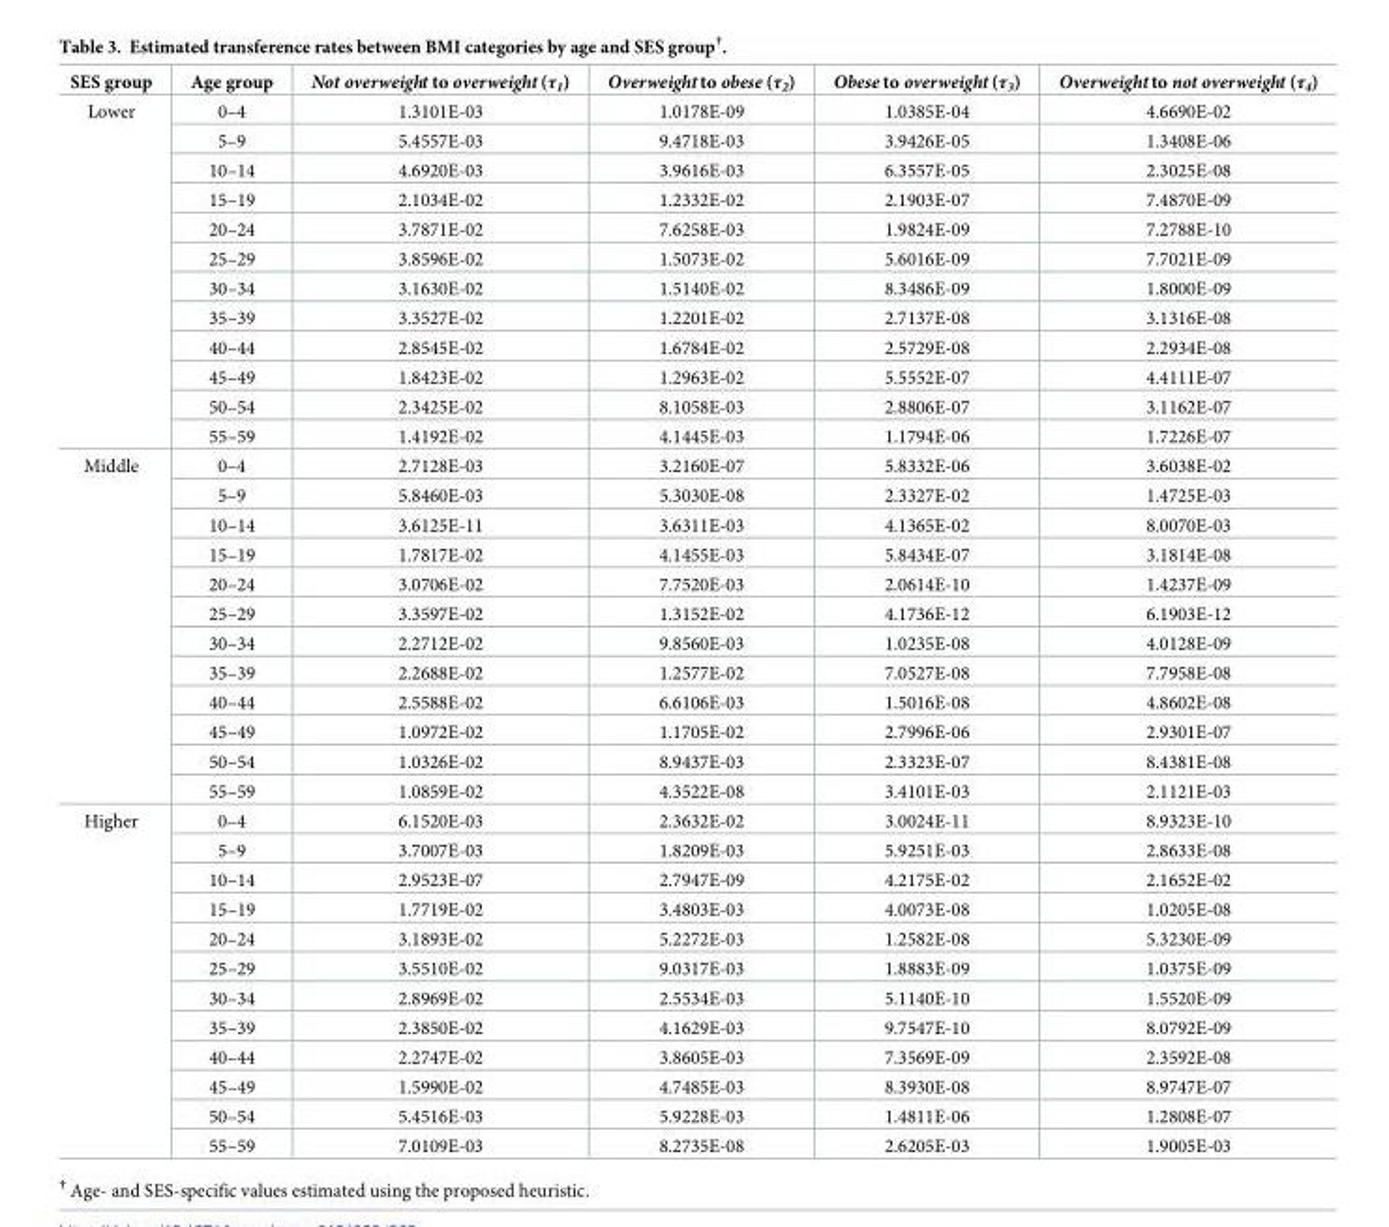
<table><thead><tr><td>SES group</td><td>Age group</td><td>Not overweight to overweight (τ<sub>1</sub>)</td><td>Overweight to obese (τ<sub>2</sub>)</td><td>Obese to overweight (τ<sub>3</sub>)</td><td>Overweightto not overweight (τ<sub>4</sub>)</td></tr></thead><tbody><tr><td rowspan="12">Lower</td><td>0–4</td><td>1.3101E-03</td><td>1.0178E-09</td><td>1.0385E-04</td><td>4.6690E-02</td></tr><tr><td>5–9</td><td>5.4557E-03</td><td>9.4718E-03</td><td>3.9426E-05</td><td>1.3408E-06</td></tr><tr><td>10–14</td><td>4.6920E-03</td><td>3.9616E-03</td><td>6.3557E-05</td><td>2.3025E-08</td></tr><tr><td>15–19</td><td>2.1034E-02</td><td>1.2332E-02</td><td>2.1903E-07</td><td>7.4870E-09</td></tr><tr><td>20–24</td><td>3.7871E-02</td><td>7.6258E-03</td><td>1.9824E-09</td><td>7.2788E-10</td></tr><tr><td>25–29</td><td>3.8596E-02</td><td>1.5073E-02</td><td>5.6016E-09</td><td>7.7021E-09</td></tr><tr><td>30–34</td><td>3.1630E-02</td><td>1.5140E-02</td><td>8.3486E-09</td><td>1.8000E-09</td></tr><tr><td>35–39</td><td>3.3527E-02</td><td>1.2201E-02</td><td>2.7137E-08</td><td>3.1316E-08</td></tr><tr><td>40–44</td><td>2.8545E-02</td><td>1.6784E-02</td><td>2.5729E-08</td><td>2.2934E-08</td></tr><tr><td>45–49</td><td>1.8423E-02</td><td>1.2963E-02</td><td>5.5552E-07</td><td>4.4111E-07</td></tr><tr><td>50–54</td><td>2.3425E-02</td><td>8.1058E-03</td><td>2.8806E-07</td><td>3.1162E-07</td></tr><tr><td>55–59</td><td>1.4192E-02</td><td>4.1445E-03</td><td>1.1794E-06</td><td>1.7226E-07</td></tr><tr><td rowspan="12">Middle</td><td>0–4</td><td>2.7128E-03</td><td>3.2160E-07</td><td>5.8332E-06</td><td>3.6038E-02</td></tr><tr><td>5–9</td><td>5.8460E-03</td><td>5.3030E-08</td><td>2.3327E-02</td><td>1.4725E-03</td></tr><tr><td>10–14</td><td>3.6125E-11</td><td>3.6311E-03</td><td>4.1365E-02</td><td>8.0070E-03</td></tr><tr><td>15–19</td><td>1.7817E-02</td><td>4.1455E-03</td><td>5.8434E-07</td><td>3.1814E-08</td></tr><tr><td>20–24</td><td>3.0706E-02</td><td>7.7520E-03</td><td>2.0614E-10</td><td>1.4237E-09</td></tr><tr><td>25–29</td><td>3.3597E-02</td><td>1.3152E-02</td><td>4.1736E-12</td><td>6.1903E-12</td></tr><tr><td>30–34</td><td>2.2712E-02</td><td>9.8560E-03</td><td>1.0235E-08</td><td>4.0128E-09</td></tr><tr><td>35–39</td><td>2.2688E-02</td><td>1.2577E-02</td><td>7.0527E-08</td><td>7.7958E-08</td></tr><tr><td>40–44</td><td>2.5588E-02</td><td>6.6106E-03</td><td>1.5016E-08</td><td>4.8602E-08</td></tr><tr><td>45–49</td><td>1.0972E-02</td><td>1.1705E-02</td><td>2.7996E-06</td><td>2.9301E-07</td></tr><tr><td>50–54</td><td>1.0326E-02</td><td>8.9437E-03</td><td>2.3323E-07</td><td>8.4381E-08</td></tr><tr><td>55–59</td><td>1.0859E-02</td><td>4.3522E-08</td><td>3.4101E-03</td><td>2.1121E-03</td></tr><tr><td rowspan="12">Higher</td><td>0–4</td><td>6.1520E-03</td><td>2.3632E-02</td><td>3.0024E-11</td><td>8.9323E-10</td></tr><tr><td>5–9</td><td>3.7007E-03</td><td>1.8209E-03</td><td>5.9251E-03</td><td>2.8633E-08</td></tr><tr><td>10–14</td><td>2.9523E-07</td><td>2.7947E-09</td><td>4.2175E-02</td><td>2.1652E-02</td></tr><tr><td>15–19</td><td>1.7719E-02</td><td>3.4803E-03</td><td>4.0073E-08</td><td>1.0205E-08</td></tr><tr><td>20–24</td><td>3.1893E-02</td><td>5.2272E-03</td><td>1.2582E-08</td><td>5.3230E-09</td></tr><tr><td>25–29</td><td>3.5510E-02</td><td>9.0317E-03</td><td>1.8883E-09</td><td>1.0375E-09</td></tr><tr><td>30–34</td><td>2.8969E-02</td><td>2.5534E-03</td><td>5.1140E-10</td><td>1.5520E-09</td></tr><tr><td>35–39</td><td>2.3850E-02</td><td>4.1629E-03</td><td>9.7547E-10</td><td>8.0792E-09</td></tr><tr><td>40–44</td><td>2.2747E-02</td><td>3.8605E-03</td><td>7.3569E-09</td><td>2.3592E-08</td></tr><tr><td>45–49</td><td>1.5990E-02</td><td>4.7485E-03</td><td>8.3930E-08</td><td>8.9747E-07</td></tr><tr><td>50–54</td><td>5.4516E-03</td><td>5.9228E-03</td><td>1.4811E-06</td><td>1.2808E-07</td></tr><tr><td>55–59</td><td>7.0109E-03</td><td>8.2735E-08</td><td>2.6205E-03</td><td>1.9005E-03</td></tr></tbody></table>